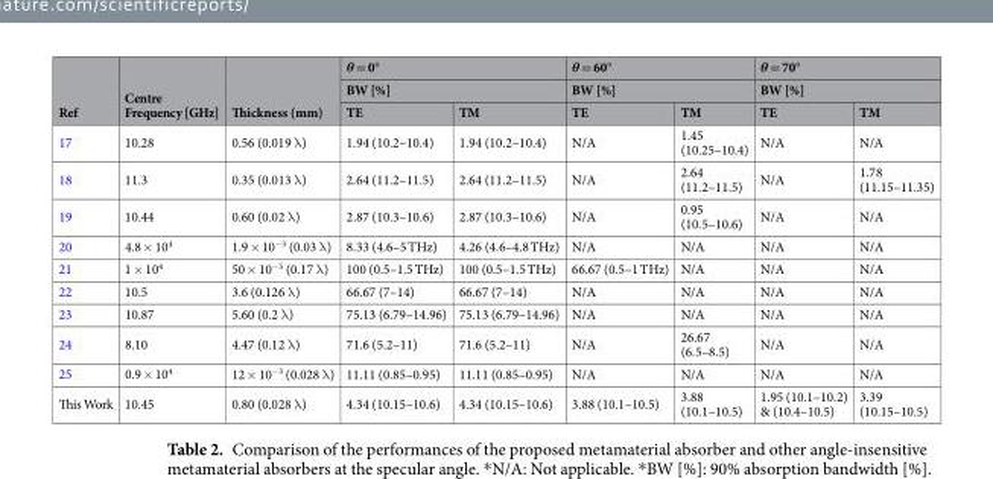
<table><thead><tr><td rowspan="3">Ref</td><td rowspan="3">Centre Frequency [GHz]</td><td rowspan="3">Thickness (mm)</td><td rowspan="2" colspan="2">θ = 0° BW [%]</td><td rowspan="2" colspan="2">θ = 60° BW [%]</td><td rowspan="2" colspan="2">θ = 70° BW [%]</td></tr><tr></tr><tr><td>TE</td><td>TM</td><td>TE</td><td>TM</td><td>TE</td><td>TM</td></tr></thead><tbody><tr><td>17</td><td>10.28</td><td>0.56 (0.019 λ)</td><td>1.94 (10.2–10.4)</td><td>1.94 (10.2–10.4)</td><td>N/A</td><td>1.45 (10.25–10.4)</td><td>N/A</td><td>N/A</td></tr><tr><td>18</td><td>11.3</td><td>0.35 (0.013 λ)</td><td>2.64 (11.2–11.5)</td><td>2.64 (11.2–11.5)</td><td>N/A</td><td>2.64 (11.2–11.5)</td><td>N/A</td><td>1.78 (11.15–11.35)</td></tr><tr><td>19</td><td>10.44</td><td>0.60 (0.02 λ)</td><td>2.87 (10.3–10.6)</td><td>2.87 (10.3–10.6)</td><td>N/A</td><td>0.95 (10.5–10.6)</td><td>N/A</td><td>N/A</td></tr><tr><td>20</td><td>4.8 × 10<sup>4</sup></td><td>1.9 × 10<sup>−3</sup> (0.03 λ)</td><td>8.33 (4.6–5 THz)</td><td>4.26 (4.6–4.8 THz)</td><td>N/A</td><td>N/A</td><td>N/A</td><td>N/A</td></tr><tr><td>21</td><td>1 × 10<sup>4</sup></td><td>50 × 10<sup>−3</sup> (0.17 λ)</td><td>100 (0.5–1.5 THz)</td><td>100 (0.5–1.5 THz)</td><td>66.67 (0.5–1 THz)</td><td>N/A</td><td>N/A</td><td>N/A</td></tr><tr><td>22</td><td>10.5</td><td>3.6 (0.126 λ)</td><td>66.67 (7–14)</td><td>66.67 (7–14)</td><td>N/A</td><td>N/A</td><td>N/A</td><td>N/A</td></tr><tr><td>23</td><td>10.87</td><td>5.60 (0.2 λ)</td><td>75.13 (6.79–14.96)</td><td>75.13 (6.79–14.96)</td><td>N/A</td><td>N/A</td><td>N/A</td><td>N/A</td></tr><tr><td>24</td><td>8.10</td><td>4.47 (0.12 λ)</td><td>71.6 (5.2–11)</td><td>71.6 (5.2–11)</td><td>N/A</td><td>26.67 (6.5–8.5)</td><td>N/A</td><td>N/A</td></tr><tr><td>25</td><td>0.9 × 10<sup>4</sup></td><td>12 × 10<sup>−3</sup> (0.028 λ)</td><td>11.11 (0.85–0.95)</td><td>11.11 (0.85–0.95)</td><td>N/A</td><td>N/A</td><td>N/A</td><td>N/A</td></tr><tr><td>This Work</td><td>10.45</td><td>0.80 (0.028 λ)</td><td>4.34 (10.15–10.6)</td><td>4.34 (10.15–10.6)</td><td>3.88 (10.1–10.5)</td><td>3.88 (10.1–10.5)</td><td>1.95 (10.1–10.2) &amp; (10.4–10.5)</td><td>3.39 (10.15–10.5)</td></tr></tbody></table>